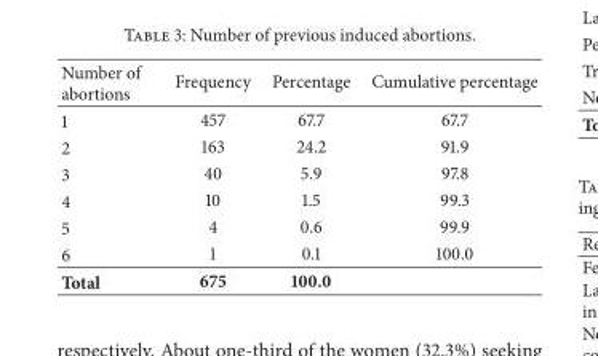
<table><thead><tr><td>Number of abortions</td><td>Frequency</td><td>Percentage</td><td>Cumulative percentage</td></tr></thead><tbody><tr><td>1</td><td>457</td><td>67.7</td><td>67.7</td></tr><tr><td>2</td><td>163</td><td>24.2</td><td>91.9</td></tr><tr><td>3</td><td>40</td><td>5.9</td><td>97.8</td></tr><tr><td>4</td><td>10</td><td>1.5</td><td>99.3</td></tr><tr><td>5</td><td>4</td><td>0.6</td><td>99.9</td></tr><tr><td>6</td><td>1</td><td>0.1</td><td>100.0</td></tr><tr><td>Total</td><td>675</td><td>100.0</td><td></td></tr></tbody></table>